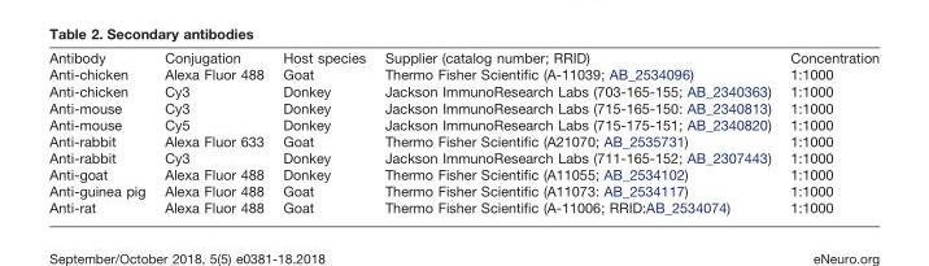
<table><thead><tr><td>Antibody</td><td>Conjugation</td><td>Host species</td><td>Supplier (catalog number; RRID)</td><td>Concentration</td></tr></thead><tbody><tr><td>Anti-chicken</td><td>Alexa Fluor 488</td><td>Goat</td><td>Thermo Fisher Scientific (A-11039; AB_2534096)</td><td>1:1000</td></tr><tr><td>Anti-chicken</td><td>Cy3</td><td>Donkey</td><td>Jackson ImmunoResearch Labs (703-165-155; AB_2340363)</td><td>1:1000</td></tr><tr><td>Anti-mouse</td><td>Cy3</td><td>Donkey</td><td>Jackson ImmunoResearch Labs (715-165-150: AB_2340813)</td><td>1:1000</td></tr><tr><td>Anti-mouse</td><td>Cy5</td><td>Donkey</td><td>Jackson ImmunoResearch Labs (715-175-151; AB_2340820)</td><td>1:1000</td></tr><tr><td>Anti-rabbit</td><td>Alexa Fluor 633</td><td>Goat</td><td>Thermo Fisher Scientific (A21070; AB_2535731)</td><td>1:1000</td></tr><tr><td>Anti-rabbit</td><td>Cy3</td><td>Donkey</td><td>Jackson ImmunoResearch Labs (711-165-152; AB_2307443)</td><td>1:1000</td></tr><tr><td>Anti-goat</td><td>Alexa Fluor 488</td><td>Donkey</td><td>Thermo Fisher Scientific (A11055; AB_2534102)</td><td>1:1000</td></tr><tr><td>Anti-guinea pig</td><td>Alexa Fluor 488</td><td>Goat</td><td>Thermo Fisher Scientific (A11073: AB_2534117)</td><td>1:1000</td></tr><tr><td>Anti-rat</td><td>Alexa Fluor 488</td><td>Goat</td><td>Thermo Fisher Scientific (A-11006; RRID:AB_2534074)</td><td>1:1000</td></tr></tbody></table>